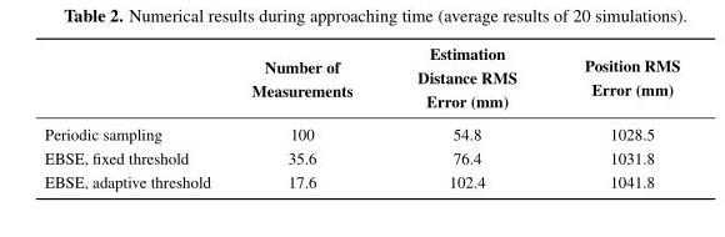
<table><thead><tr><td></td><td>Number of Measurements</td><td>Estimation Distance RMS Error (mm)</td><td>Position RMS Error (mm)</td></tr></thead><tbody><tr><td>Periodic sampling</td><td>100</td><td>54.8</td><td>1028.5</td></tr><tr><td>EBSE, fixed threshold</td><td>35.6</td><td>76.4</td><td>1031.8</td></tr><tr><td>EBSE, adaptive threshold</td><td>17.6</td><td>102.4</td><td>1041.8</td></tr></tbody></table>